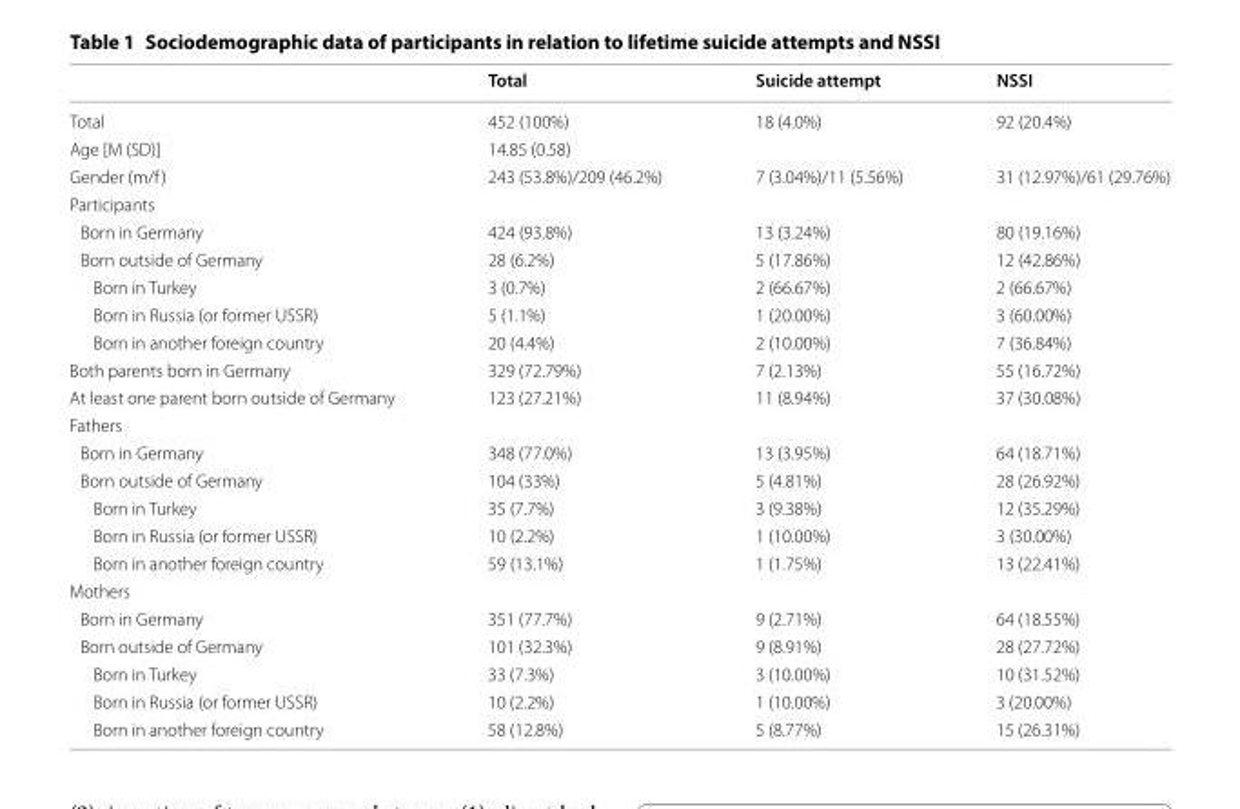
<table><thead><tr><td></td><td>Total</td><td>Suicide attempt</td><td>NSSI</td></tr></thead><tbody><tr><td>Total</td><td>452 (100%)</td><td>18 (4.0%)</td><td>92 (20.4%)</td></tr><tr><td>Age [M (SD)]</td><td>14.85 (0.58)</td><td></td><td></td></tr><tr><td>Gender (m/f)</td><td>243 (53.8%)/209 (46.2%)</td><td>7 (3.04%)/11 (5.56%)</td><td>31 (12.97%)/61 (29.76%)</td></tr><tr><td colspan="4">Participants</td></tr><tr><td>Born in Germany</td><td>424 (93.8%)</td><td>13 (3.24%)</td><td>80 (19.16%)</td></tr><tr><td>Born outside of Germany</td><td>28 (6.2%)</td><td>5 (17.86%)</td><td>12 (42.86%)</td></tr><tr><td>Born in Turkey</td><td>3 (0.7%)</td><td>2 (66.67%)</td><td>2 (66.67%)</td></tr><tr><td>Born in Russia (or former USSR)</td><td>5 (1.1%)</td><td>1 (20.00%)</td><td>3 (60.00%)</td></tr><tr><td>Born in another foreign country</td><td>20 (4.4%)</td><td>2 (10.00%)</td><td>7 (36.84%)</td></tr><tr><td>Both parents born in Germany</td><td>329 (72.79%)</td><td>7 (2.13%)</td><td>55 (16.72%)</td></tr><tr><td>At least one parent born outside of Germany</td><td>123 (27.21%)</td><td>11 (8.94%)</td><td>37 (30.08%)</td></tr><tr><td colspan="4">Fathers</td></tr><tr><td>Born in Germany</td><td>348 (77.0%)</td><td>13 (3.95%)</td><td>64 (18.71%)</td></tr><tr><td>Born outside of Germany</td><td>104 (33%)</td><td>5 (4.81%)</td><td>28 (26.92%)</td></tr><tr><td>Born in Turkey</td><td>35 (7.7%)</td><td>3 (9.38%)</td><td>12 (35.29%)</td></tr><tr><td>Born in Russia (or former USSR)</td><td>10 (2.2%)</td><td>1 (10.00%)</td><td>3 (30.00%)</td></tr><tr><td>Born in another foreign country</td><td>59 (13.1%)</td><td>1 (1.75%)</td><td>13 (22.41%)</td></tr><tr><td colspan="4">Mothers</td></tr><tr><td>Born in Germany</td><td>351 (77.7%)</td><td>9 (2.71%)</td><td>64 (18.55%)</td></tr><tr><td>Born outside of Germany</td><td>101 (32.3%)</td><td>9 (8.91%)</td><td>28 (27.72%)</td></tr><tr><td>Born in Turkey</td><td>33 (7.3%)</td><td>3 (10.00%)</td><td>10 (31.52%)</td></tr><tr><td>Born in Russia (or former USSR)</td><td>10 (2.2%)</td><td>1 (10.00%)</td><td>3 (20.00%)</td></tr><tr><td>Born in another foreign country</td><td>58 (12.8%)</td><td>5 (8.77%)</td><td>15 (26.31%)</td></tr></tbody></table>